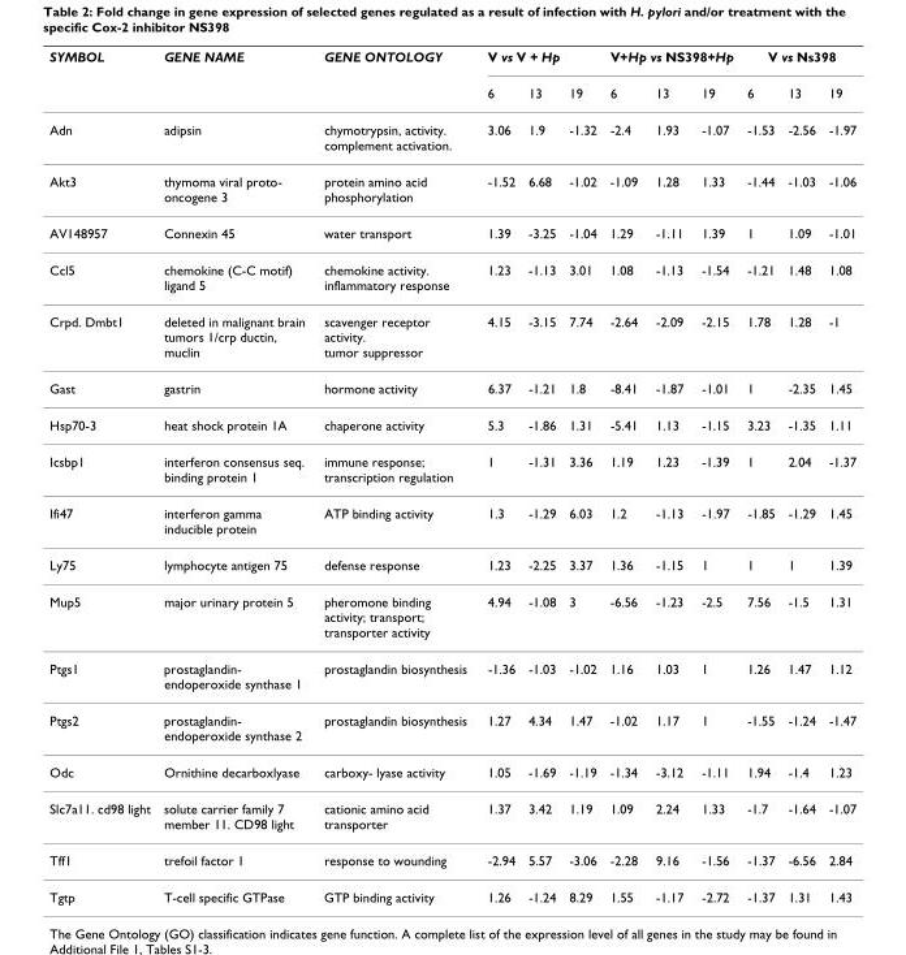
<table><thead><tr><td rowspan="2">SYMBOL</td><td rowspan="2">GENE NAME</td><td rowspan="2">GENE ONTOLOGY</td><td colspan="3">V vs V + Hp</td><td colspan="3">V+Hp vs NS398+Hp</td><td colspan="3">V vs Ns398</td></tr><tr><td>6</td><td>13</td><td>19</td><td>6</td><td>13</td><td>19</td><td>6</td><td>13</td><td>19</td></tr></thead><tbody><tr><td>Adn</td><td>adipsin</td><td>chymotrypsin, activity. complement activation.</td><td>3.06</td><td>1.9</td><td>-1.32</td><td>-2.4</td><td>1.93</td><td>-1.07</td><td>-1.53</td><td>-2.56</td><td>-1.97</td></tr><tr><td>Akt3</td><td>thymoma viral proto- oncogene 3</td><td>protein amino acid phosphorylation</td><td>-1.52</td><td>6.68</td><td>-1.02</td><td>-1.09</td><td>1.28</td><td>1.33</td><td>-1.44</td><td>-1.03</td><td>-1.06</td></tr><tr><td>AV148957</td><td>Connexin 45</td><td>water transport</td><td>1.39</td><td>-3.25</td><td>-1.04</td><td>1.29</td><td>-1.11</td><td>1.39</td><td>1</td><td>1.09</td><td>-1.01</td></tr><tr><td>Ccl5</td><td>chemokine (C-C motif) ligand 5</td><td>chemokine activity. inflammatory response</td><td>1.23</td><td>-1.13</td><td>3.01</td><td>1.08</td><td>-1.13</td><td>-1.54</td><td>-1.21</td><td>1.48</td><td>1.08</td></tr><tr><td>Crpd. Dmbt1</td><td>deleted in malignant brain tumors 1/crp ductin, muclin</td><td>scavenger receptor activity. tumor suppressor</td><td>4.15</td><td>-3.15</td><td>7.74</td><td>-2.64</td><td>-2.09</td><td>-2.15</td><td>1.78</td><td>1.28</td><td>-1</td></tr><tr><td>Gast</td><td>gastrin</td><td>hormone activity</td><td>6.37</td><td>-1.21</td><td>1.8</td><td>-8.41</td><td>-1.87</td><td>-1.01</td><td>1</td><td>-2.35</td><td>1.45</td></tr><tr><td>Hsp70-3</td><td>heat shock protein 1A</td><td>chaperone activity</td><td>5.3</td><td>-1.86</td><td>1.31</td><td>-5.41</td><td>1.13</td><td>-1.15</td><td>3.23</td><td>-1.35</td><td>1.11</td></tr><tr><td>Icsbp1</td><td>interferon consensus seq. binding protein 1</td><td>immune response; transcription regulation</td><td>1</td><td>-1.31</td><td>3.36</td><td>1.19</td><td>1.23</td><td>-1.39</td><td>1</td><td>2.04</td><td>-1.37</td></tr><tr><td>Ifi47</td><td>interferon gamma inducible protein</td><td>ATP binding activity</td><td>1.3</td><td>-1.29</td><td>6.03</td><td>1.2</td><td>-1.13</td><td>-1.97</td><td>-1.85</td><td>-1.29</td><td>1.45</td></tr><tr><td>Ly75</td><td>lymphocyte antigen 75</td><td>defense response</td><td>1.23</td><td>-2.25</td><td>3.37</td><td>1.36</td><td>-1.15</td><td>1</td><td>1</td><td>1</td><td>1.39</td></tr><tr><td>Mup5</td><td>major urinary protein 5</td><td>pheromone binding activity; transport; transporter activity</td><td>4.94</td><td>-1.08</td><td>3</td><td>-6.56</td><td>-1.23</td><td>-2.5</td><td>7.56</td><td>-1.5</td><td>1.31</td></tr><tr><td>Ptgs1</td><td>prostaglandin- endoperoxide synthase 1</td><td>prostaglandin biosynthesis</td><td>-1.36</td><td>-1.03</td><td>-1.02</td><td>1.16</td><td>1.03</td><td>1</td><td>1.26</td><td>1.47</td><td>1.12</td></tr><tr><td>Ptgs2</td><td>prostaglandin- endoperoxide synthase 2</td><td>prostaglandin biosynthesis</td><td>1.27</td><td>4.34</td><td>1.47</td><td>-1.02</td><td>1.17</td><td>1</td><td>-1.55</td><td>-1.24</td><td>-1.47</td></tr><tr><td>Odc</td><td>Ornithine decarboxlyase</td><td>carboxy- lyase activity</td><td>1.05</td><td>-1.69</td><td>-1.19</td><td>-1.34</td><td>-3.12</td><td>-1.11</td><td>1.94</td><td>-1.4</td><td>1.23</td></tr><tr><td>Slc7a11. cd98 light</td><td>solute carrier family 7 member 11. CD98 light</td><td>cationic amino acid transporter</td><td>1.37</td><td>3.42</td><td>1.19</td><td>1.09</td><td>2.24</td><td>1.33</td><td>-1.7</td><td>-1.64</td><td>-1.07</td></tr><tr><td>Tff1</td><td>trefoil factor 1</td><td>response to wounding</td><td>-2.94</td><td>5.57</td><td>-3.06</td><td>-2.28</td><td>9.16</td><td>-1.56</td><td>-1.37</td><td>-6.56</td><td>2.84</td></tr><tr><td>Tgtp</td><td>T-cell specific GTPase</td><td>GTP binding activity</td><td>1.26</td><td>-1.24</td><td>8.29</td><td>1.55</td><td>-1.17</td><td>-2.72</td><td>-1.37</td><td>1.31</td><td>1.43</td></tr></tbody></table>